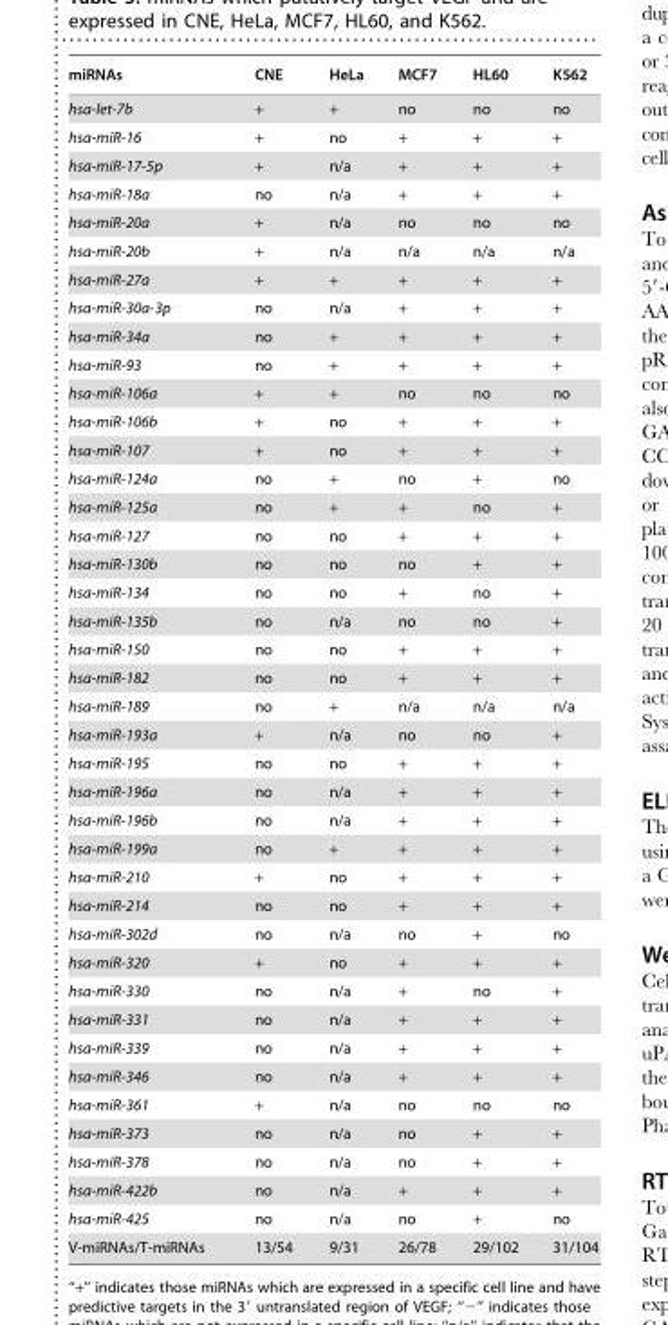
<table><thead><tr><td>miRNAs</td><td>CNE</td><td>HeLa</td><td>MCF7</td><td>HL60</td><td>K562</td></tr></thead><tbody><tr><td>hsa-let-7b</td><td>+</td><td>+</td><td>no</td><td>no</td><td>no</td></tr><tr><td>hsa-miR-16</td><td>+</td><td>no</td><td>+</td><td>+</td><td>+</td></tr><tr><td>hsa-miR-17-5p</td><td>+</td><td>n/a</td><td>+</td><td>+</td><td>+</td></tr><tr><td>hsa-miR-18a</td><td>no</td><td>n/a</td><td>+</td><td>+</td><td>+</td></tr><tr><td>hsa-miR-20a</td><td>+</td><td>n/a</td><td>no</td><td>no</td><td>no</td></tr><tr><td>hsa-miR-20b</td><td>+</td><td>n/a</td><td>n/a</td><td>n/a</td><td>n/a</td></tr><tr><td>hsa-miR-27a</td><td>+</td><td>+</td><td>+</td><td>+</td><td>+</td></tr><tr><td>hsa-miR-30a-3p</td><td>no</td><td>n/a</td><td>+</td><td>+</td><td>+</td></tr><tr><td>hsa-miR-34a</td><td>no</td><td>+</td><td>+</td><td>+</td><td>+</td></tr><tr><td>hsa-miR-93</td><td>no</td><td>+</td><td>+</td><td>+</td><td>+</td></tr><tr><td>hsa-miR-106a</td><td>+</td><td>+</td><td>no</td><td>no</td><td>no</td></tr><tr><td>hsa-miR-106b</td><td>+</td><td>no</td><td>+</td><td>+</td><td>+</td></tr><tr><td>hsa-miR-107</td><td>+</td><td>no</td><td>+</td><td>+</td><td>+</td></tr><tr><td>hsa-miR-124a</td><td>no</td><td>+</td><td>no</td><td>+</td><td>no</td></tr><tr><td>hsa-miR-125a</td><td>no</td><td>+</td><td>+</td><td>no</td><td>+</td></tr><tr><td>hsa-miR-127</td><td>no</td><td>no</td><td>+</td><td>+</td><td>+</td></tr><tr><td>hsa-miR-130b</td><td>no</td><td>no</td><td>no</td><td>+</td><td>+</td></tr><tr><td>hsa-miR-134</td><td>no</td><td>no</td><td>+</td><td>no</td><td>+</td></tr><tr><td>hsa-miR-135b</td><td>no</td><td>n/a</td><td>no</td><td>no</td><td>+</td></tr><tr><td>hsa-miR-150</td><td>no</td><td>no</td><td>+</td><td>+</td><td>+</td></tr><tr><td>hsa-miR-182</td><td>no</td><td>no</td><td>+</td><td>+</td><td>+</td></tr><tr><td>hsa-miR-189</td><td>no</td><td>+</td><td>n/a</td><td>n/a</td><td>n/a</td></tr><tr><td>hsa-miR-193a</td><td>+</td><td>n/a</td><td>no</td><td>no</td><td>+</td></tr><tr><td>hsa-miR-195</td><td>no</td><td>no</td><td>+</td><td>+</td><td>+</td></tr><tr><td>hsa-miR-196a</td><td>no</td><td>n/a</td><td>+</td><td>+</td><td>+</td></tr><tr><td>hsa-miR-196b</td><td>no</td><td>n/a</td><td>+</td><td>+</td><td>+</td></tr><tr><td>hsa-miR-199a</td><td>no</td><td>+</td><td>+</td><td>+</td><td>+</td></tr><tr><td>hsa-miR-210</td><td>+</td><td>no</td><td>+</td><td>+</td><td>+</td></tr><tr><td>hsa-miR-214</td><td>no</td><td>no</td><td>+</td><td>+</td><td>+</td></tr><tr><td>hsa-miR-302d</td><td>no</td><td>n/a</td><td>no</td><td>+</td><td>no</td></tr><tr><td>hsa-miR-320</td><td>+</td><td>no</td><td>+</td><td>+</td><td>+</td></tr><tr><td>hsa-miR-330</td><td>no</td><td>n/a</td><td>+</td><td>no</td><td>+</td></tr><tr><td>hsa-miR-331</td><td>no</td><td>n/a</td><td>+</td><td>+</td><td>+</td></tr><tr><td>hsa-miR-339</td><td>no</td><td>n/a</td><td>+</td><td>+</td><td>+</td></tr><tr><td>hsa-miR-346</td><td>no</td><td>n/a</td><td>+</td><td>+</td><td>+</td></tr><tr><td>hsa-miR-361</td><td>+</td><td>n/a</td><td>no</td><td>no</td><td>no</td></tr><tr><td>hsa-miR-373</td><td>no</td><td>n/a</td><td>no</td><td>+</td><td>+</td></tr><tr><td>hsa-miR-378</td><td>no</td><td>n/a</td><td>no</td><td>+</td><td>+</td></tr><tr><td>hsa-miR-422b</td><td>no</td><td>n/a</td><td>+</td><td>+</td><td>+</td></tr><tr><td>hsa-miR-425</td><td>no</td><td>n/a</td><td>no</td><td>+</td><td>no</td></tr><tr><td>V-miRNAs/T-miRNAs</td><td>13/54</td><td>9/31</td><td>26/78</td><td>29/102</td><td>31/104</td></tr></tbody></table>